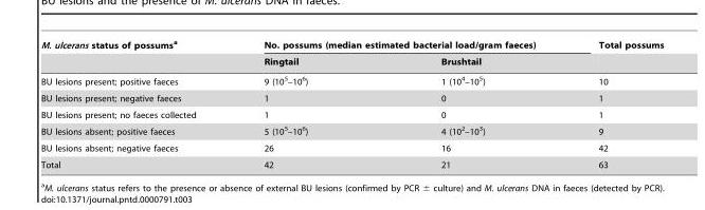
<table><thead><tr><td rowspan="2">M. ulcerans status of possums<sup>a</sup></td><td colspan="2">No. possums (median estimated bacterial load/gram faeces)</td><td rowspan="2">Total possums</td></tr><tr><td>Ringtail</td><td>Brushtail</td></tr></thead><tbody><tr><td>BU lesions present; positive faeces</td><td>9 (10<sup>5</sup>–10<sup>6</sup>)</td><td>1 (10<sup>4</sup>–10<sup>5</sup>)</td><td>10</td></tr><tr><td>BU lesions present; negative faeces</td><td>1</td><td>0</td><td>1</td></tr><tr><td>BU lesions present; no faeces collected</td><td>1</td><td>0</td><td>1</td></tr><tr><td>BU lesions absent; positive faeces</td><td>5 (10<sup>5</sup>–10<sup>6</sup>)</td><td>4 (10<sup>2</sup>–10<sup>3</sup>)</td><td>9</td></tr><tr><td>BU lesions absent; negative faeces</td><td>26</td><td>16</td><td>42</td></tr><tr><td>Total</td><td>42</td><td>21</td><td>63</td></tr></tbody></table>